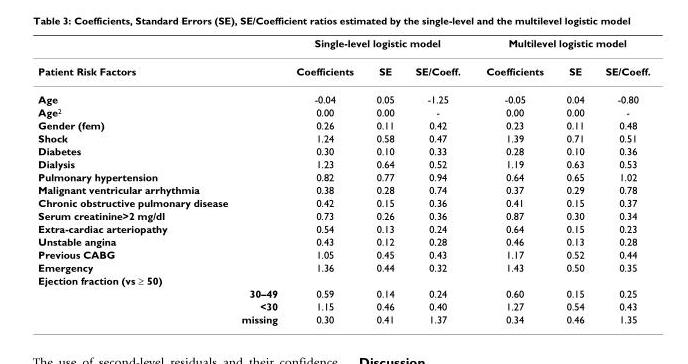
<table><thead><tr><td rowspan="2">Patient Risk Factors</td><td colspan="3">Single-level logistic model</td><td colspan="3">Multilevel logistic model</td></tr><tr><td>Coefficients</td><td>SE</td><td>SE/Coeff.</td><td>Coefficients</td><td>SE</td><td>SE/Coeff.</td></tr></thead><tbody><tr><td>Age</td><td>-0.04</td><td>0.05</td><td>-1.25</td><td>-0.05</td><td>0.04</td><td>-0.80</td></tr><tr><td>Age<sup>2</sup></td><td>0.00</td><td>0.00</td><td>-</td><td>0.00</td><td>0.00</td><td>-</td></tr><tr><td>Gender (fem)</td><td>0.26</td><td>0.11</td><td>0.42</td><td>0.23</td><td>0.11</td><td>0.48</td></tr><tr><td>Shock</td><td>1.24</td><td>0.58</td><td>0.47</td><td>1.39</td><td>0.71</td><td>0.51</td></tr><tr><td>Diabetes</td><td>0.30</td><td>0.10</td><td>0.33</td><td>0.28</td><td>0.10</td><td>0.36</td></tr><tr><td>Dialysis</td><td>1.23</td><td>0.64</td><td>0.52</td><td>1.19</td><td>0.63</td><td>0.53</td></tr><tr><td>Pulmonary hypertension</td><td>0.82</td><td>0.77</td><td>0.94</td><td>0.64</td><td>0.65</td><td>1.02</td></tr><tr><td>Malignant ventricular arrhythmia</td><td>0.38</td><td>0.28</td><td>0.74</td><td>0.37</td><td>0.29</td><td>0.78</td></tr><tr><td>Chronic obstructive pulmonary disease</td><td>0.42</td><td>0.15</td><td>0.36</td><td>0.41</td><td>0.15</td><td>0.37</td></tr><tr><td>Serum creatinine&gt;2 mg/dl</td><td>0.73</td><td>0.26</td><td>0.36</td><td>0.87</td><td>0.30</td><td>0.34</td></tr><tr><td>Extra-cardiac arteriopathy</td><td>0.54</td><td>0.13</td><td>0.24</td><td>0.64</td><td>0.15</td><td>0.23</td></tr><tr><td>Unstable angina</td><td>0.43</td><td>0.12</td><td>0.28</td><td>0.46</td><td>0.13</td><td>0.28</td></tr><tr><td>Previous CABG</td><td>1.05</td><td>0.45</td><td>0.43</td><td>1.17</td><td>0.52</td><td>0.44</td></tr><tr><td>Emergency</td><td>1.36</td><td>0.44</td><td>0.32</td><td>1.43</td><td>0.50</td><td>0.35</td></tr><tr><td colspan="7">Ejection fraction (vs ≥ 50)</td></tr><tr><td>30–49</td><td>0.59</td><td>0.14</td><td>0.24</td><td>0.60</td><td>0.15</td><td>0.25</td></tr><tr><td>&lt;30</td><td>1.15</td><td>0.46</td><td>0.40</td><td>1.27</td><td>0.54</td><td>0.43</td></tr><tr><td>missing</td><td>0.30</td><td>0.41</td><td>1.37</td><td>0.34</td><td>0.46</td><td>1.35</td></tr></tbody></table>